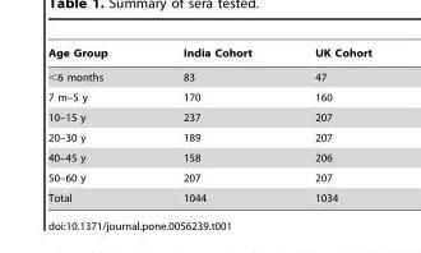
<table><thead><tr><td>Age Group</td><td>India Cohort</td><td>UK Cohort</td></tr></thead><tbody><tr><td>&lt;6 months</td><td>83</td><td>47</td></tr><tr><td>7 m–5 y</td><td>170</td><td>160</td></tr><tr><td>10–15 y</td><td>237</td><td>207</td></tr><tr><td>20–30 y</td><td>189</td><td>207</td></tr><tr><td>40–45 y</td><td>158</td><td>206</td></tr><tr><td>50–60 y</td><td>207</td><td>207</td></tr><tr><td>Total</td><td>1044</td><td>1034</td></tr></tbody></table>